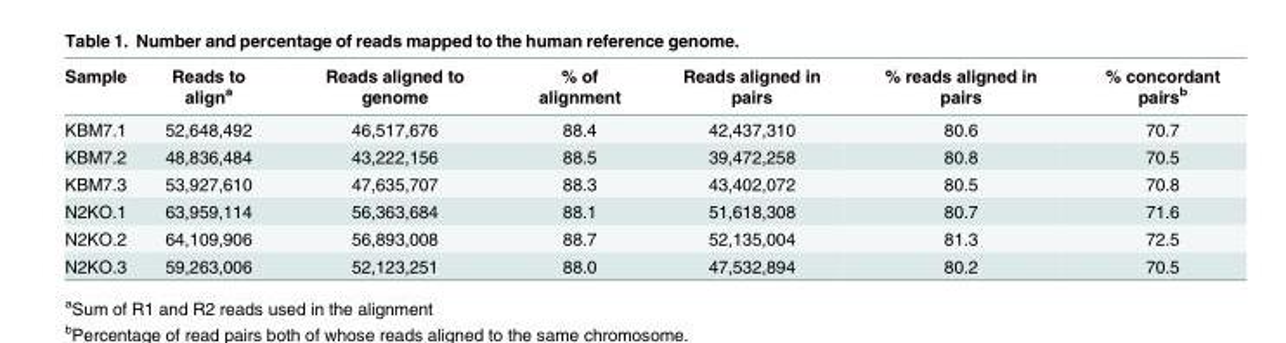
<table><thead><tr><td>Sample</td><td>Reads to align<sup>a</sup></td><td>Reads aligned to genome</td><td>% of alignment</td><td>Reads aligned in pairs</td><td>% reads aligned in pairs</td><td>% concordant pairs<sup>b</sup></td></tr></thead><tbody><tr><td>KBM7.1</td><td>52,648,492</td><td>46,517,676</td><td>88.4</td><td>42,437,310</td><td>80.6</td><td>70.7</td></tr><tr><td>KBM7.2</td><td>48,836,484</td><td>43,222,156</td><td>88.5</td><td>39,472,258</td><td>80.8</td><td>70.5</td></tr><tr><td>KBM7.3</td><td>53,927,610</td><td>47,635,707</td><td>88.3</td><td>43,402,072</td><td>80.5</td><td>70.8</td></tr><tr><td>N2KO.1</td><td>63,959,114</td><td>56,363,684</td><td>88.1</td><td>51,618,308</td><td>80.7</td><td>71.6</td></tr><tr><td>N2KO.2</td><td>64,109,906</td><td>56,893,008</td><td>88.7</td><td>52,135,004</td><td>81.3</td><td>72.5</td></tr><tr><td>N2KO.3</td><td>59,263,006</td><td>52,123,251</td><td>88.0</td><td>47,532,894</td><td>80.2</td><td>70.5</td></tr></tbody></table>